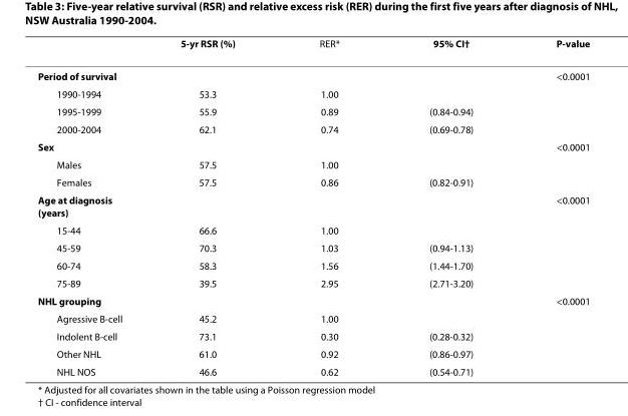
<table><thead><tr><td></td><td>5-yr RSR (%)</td><td>RER*</td><td>95% CI†</td><td>P-value</td></tr></thead><tbody><tr><td>Period of survival</td><td></td><td></td><td></td><td>&lt;0.0001</td></tr><tr><td>1990-1994</td><td>53.3</td><td>1.00</td><td></td><td></td></tr><tr><td>1995-1999</td><td>55.9</td><td>0.89</td><td>(0.84-0.94)</td><td></td></tr><tr><td>2000-2004</td><td>62.1</td><td>0.74</td><td>(0.69-0.78)</td><td></td></tr><tr><td>Sex</td><td></td><td></td><td></td><td>&lt;0.0001</td></tr><tr><td>Males</td><td>57.5</td><td>1.00</td><td></td><td></td></tr><tr><td>Females</td><td>57.5</td><td>0.86</td><td>(0.82-0.91)</td><td></td></tr><tr><td>Age at diagnosis (years)</td><td></td><td></td><td></td><td>&lt;0.0001</td></tr><tr><td>15-44</td><td>66.6</td><td>1.00</td><td></td><td></td></tr><tr><td>45-59</td><td>70.3</td><td>1.03</td><td>(0.94-1.13)</td><td></td></tr><tr><td>60-74</td><td>58.3</td><td>1.56</td><td>(1.44-1.70)</td><td></td></tr><tr><td>75-89</td><td>39.5</td><td>2.95</td><td>(2.71-3.20)</td><td></td></tr><tr><td>NHL grouping</td><td></td><td></td><td></td><td>&lt;0.0001</td></tr><tr><td>Agressive B-cell</td><td>45.2</td><td>1.00</td><td></td><td></td></tr><tr><td>Indolent B-cell</td><td>73.1</td><td>0.30</td><td>(0.28-0.32)</td><td></td></tr><tr><td>Other NHL</td><td>61.0</td><td>0.92</td><td>(0.86-0.97)</td><td></td></tr><tr><td>NHL NOS</td><td>46.6</td><td>0.62</td><td>(0.54-0.71)</td><td></td></tr></tbody></table>